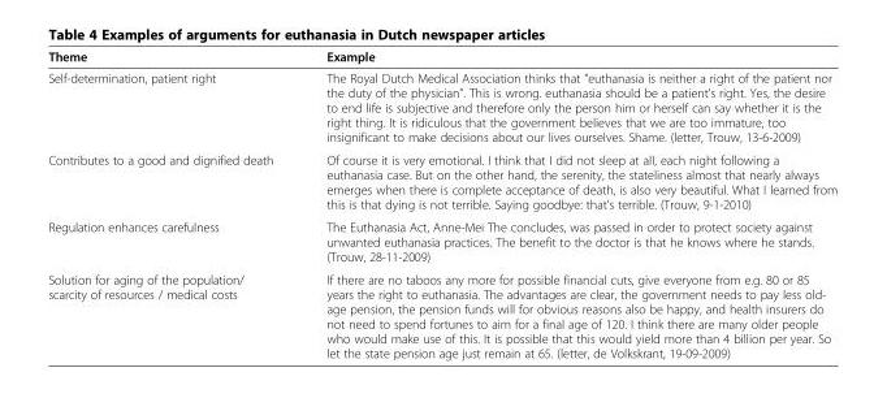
<table><thead><tr><td>Theme</td><td>Example</td></tr></thead><tbody><tr><td>Self-determination, patient right</td><td>The Royal Dutch Medical Association thinks that &quot;euthanasia is neither a right of the patient nor the duty of the physician”. This is wrong. euthanasia should be a patient&#x27;s right. Yes, the desire to end life is subjective and therefore only the person him or herself can say whether it is the right thing. It is ridiculous that the government believes that we are too immature, too insignificant to make decisions about our lives ourselves. Shame. (letter, Trouw, 13-6-2009)</td></tr><tr><td>Contributes to a good and dignified death</td><td>Of course it is very emotional. I think that I did not sleep at all, each night following a euthanasia case. But on the other hand, the serenity, the stateliness almost that nearly always emerges when there is complete acceptance of death, is also very beautiful. What I learned from this is that dying is not terrible. Saying goodbye: that&#x27;s terrible. (Trouw, 9-1-2010)</td></tr><tr><td>Regulation enhances carefulness</td><td>The Euthanasia Act, Anne-Mei The concludes, was passed in order to protect society against unwanted euthanasia practices. The benefit to the doctor is that he knows where he stands. (Trouw, 28-11-2009)</td></tr><tr><td>Solution for aging of the population/ scarcity of resources / medical costs</td><td>If there are no taboos any more for possible financial cuts, give everyone from e.g. 80 or 85 years the right to euthanasia. The advantages are clear, the government needs to pay less old- age pension, the pension funds will for obvious reasons also be happy, and health insurers do not need to spend fortunes to aim for a final age of 120. I think there are many older people who would make use of this. It is possible that this would yield more than 4 billion per year. So let the state pension age just remain at 65. (letter, de Volkskrant, 19-09-2009)</td></tr></tbody></table>